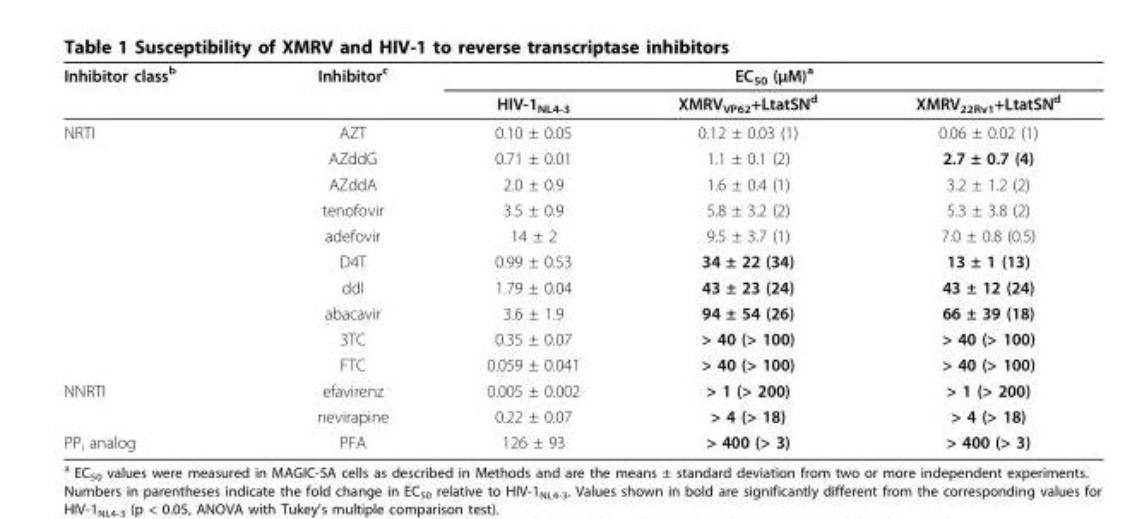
<table><thead><tr><td rowspan="2">Inhibitor class<sup>b</sup></td><td rowspan="2">Inhibitor<sup>c</sup></td><td colspan="3">EC<sub>50</sub> (μM)<sup>a</sup></td></tr><tr><td>HIV-1<sub>NL4-3</sub></td><td>XMRV<sub>VP62</sub>+LtatSN<sup>d</sup></td><td>XMRV<sub>22Rv1</sub>+LtatSN<sup>d</sup></td></tr></thead><tbody><tr><td rowspan="10">NRTI</td><td>AZT</td><td>0.10 ± 0.05</td><td>0.12 ± 0.03 (1)</td><td>0.06 ± 0.02 (1)</td></tr><tr><td>AZddG</td><td>0.71 ± 0.01</td><td>1.1 ± 0.1 (2)</td><td>2.7 ± 0.7 (4)</td></tr><tr><td>AZddA</td><td>2.0 ± 0.9</td><td>1.6 ± 0.4 (1)</td><td>3.2 ± 1.2 (2)</td></tr><tr><td>tenofovir</td><td>3.5 ± 0.9</td><td>5.8 ± 3.2 (2)</td><td>5.3 ± 3.8 (2)</td></tr><tr><td>adefovir</td><td>14 ± 2</td><td>9.5 ± 3.7 (1)</td><td>7.0 ± 0.8 (0.5)</td></tr><tr><td>D4T</td><td>0.99 ± 0.53</td><td>34 ± 22 (34)</td><td>13 ± 1 (13)</td></tr><tr><td>ddI</td><td>1.79 ± 0.04</td><td>43 ± 23 (24)</td><td>43 ± 12 (24)</td></tr><tr><td>abacavir</td><td>3.6 ± 1.9</td><td>94 ± 54 (26)</td><td>66 ± 39 (18)</td></tr><tr><td>3TC</td><td>0.35 ± 0.07</td><td>&gt; 40 (&gt; 100)</td><td>&gt; 40 (&gt; 100)</td></tr><tr><td>FTC</td><td>0.059 ± 0.041</td><td>&gt; 40 (&gt; 100)</td><td>&gt; 40 (&gt; 100)</td></tr><tr><td rowspan="2">NNRTI</td><td>efavirenz</td><td>0.005 ± 0.002</td><td>&gt; 1 (&gt; 200)</td><td>&gt; 1 (&gt; 200)</td></tr><tr><td>nevirapine</td><td>0.22 ± 0.07</td><td>&gt; 4 (&gt; 18)</td><td>&gt; 4 (&gt; 18)</td></tr><tr><td>PP<sub>i</sub> analog</td><td>PFA</td><td>126 ± 93</td><td>&gt; 400 (&gt; 3)</td><td>&gt; 400 (&gt; 3)</td></tr></tbody></table>